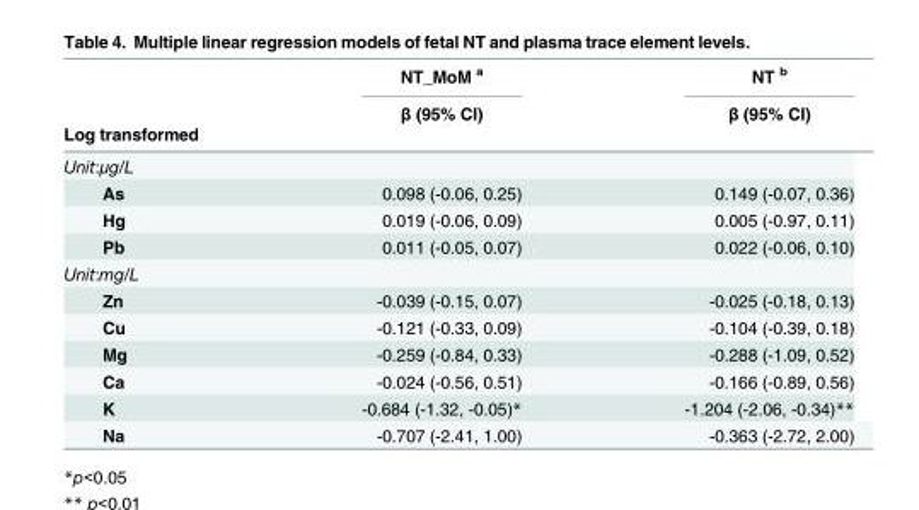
<table><thead><tr><td rowspan="3">Log transformed</td><td rowspan="3">NT_MoM <sup>a</sup> β (95% CI)</td><td rowspan="3">NT <sup>b</sup> β (95% CI)</td></tr><tr></tr><tr></tr></thead><tbody><tr><td colspan="3">Unit:μg/L</td></tr><tr><td>As</td><td>0.098 (-0.06, 0.25)</td><td>0.149 (-0.07, 0.36)</td></tr><tr><td>Hg</td><td>0.019 (-0.06, 0.09)</td><td>0.005 (-0.97, 0.11)</td></tr><tr><td>Pb</td><td>0.011 (-0.05, 0.07)</td><td>0.022 (-0.06, 0.10)</td></tr><tr><td colspan="3">Unit:mg/L</td></tr><tr><td>Zn</td><td>-0.039 (-0.15, 0.07)</td><td>-0.025 (-0.18, 0.13)</td></tr><tr><td>Cu</td><td>-0.121 (-0.33, 0.09)</td><td>-0.104 (-0.39, 0.18)</td></tr><tr><td>Mg</td><td>-0.259 (-0.84, 0.33)</td><td>-0.288 (-1.09, 0.52)</td></tr><tr><td>Ca</td><td>-0.024 (-0.56, 0.51)</td><td>-0.166 (-0.89, 0.56)</td></tr><tr><td>K</td><td>-0.684 (-1.32, -0.05)*</td><td>-1.204 (-2.06, -0.34)**</td></tr><tr><td>Na</td><td>-0.707 (-2.41, 1.00)</td><td>-0.363 (-2.72, 2.00)</td></tr></tbody></table>